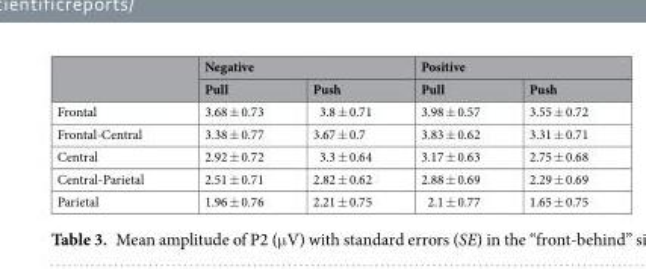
<table><thead><tr><td rowspan="2"></td><td colspan="2">Negative</td><td colspan="2">Positive</td></tr><tr><td>Pull</td><td>Push</td><td>Pull</td><td>Push</td></tr></thead><tbody><tr><td>Frontal</td><td>3.68 ± 0.73</td><td>3.8 ± 0.71</td><td>3.98 ± 0.57</td><td>3.55 ± 0.72</td></tr><tr><td>Frontal-Central</td><td>3.38 ± 0.77</td><td>3.67 ± 0.7</td><td>3.83 ± 0.62</td><td>3.31 ± 0.71</td></tr><tr><td>Central</td><td>2.92 ± 0.72</td><td>3.3 ± 0.64</td><td>3.17 ± 0.63</td><td>2.75 ± 0.68</td></tr><tr><td>Central-Parietal</td><td>2.51 ± 0.71</td><td>2.82 ± 0.62</td><td>2.88 ± 0.69</td><td>2.29 ± 0.69</td></tr><tr><td>Parietal</td><td>1.96 ± 0.76</td><td>2.21 ± 0.75</td><td>2.1 ± 0.77</td><td>1.65 ± 0.75</td></tr></tbody></table>